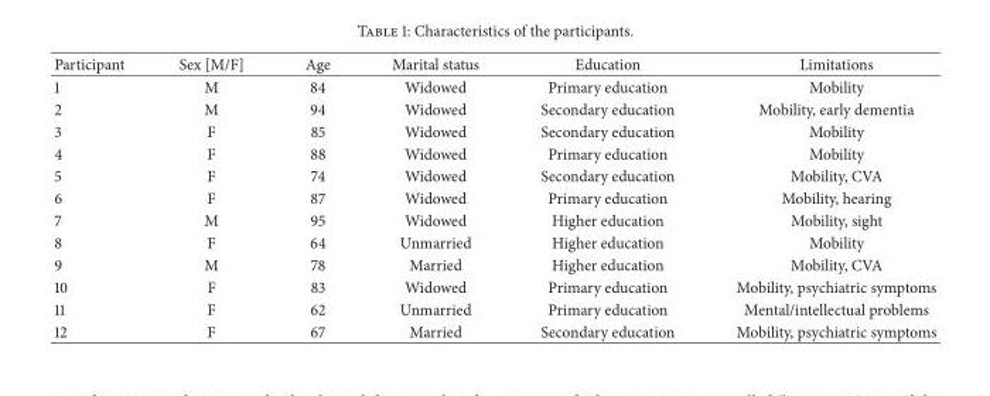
<table><thead><tr><td>Participant</td><td>Sex [M/F]</td><td>Age</td><td>Marital status</td><td>Education</td><td>Limitations</td></tr></thead><tbody><tr><td>1</td><td>M</td><td>84</td><td>Widowed</td><td>Primary education</td><td>Mobility</td></tr><tr><td>2</td><td>M</td><td>94</td><td>Widowed</td><td>Secondary education</td><td>Mobility, early dementia</td></tr><tr><td>3</td><td>F</td><td>85</td><td>Widowed</td><td>Secondary education</td><td>Mobility</td></tr><tr><td>4</td><td>F</td><td>88</td><td>Widowed</td><td>Primary education</td><td>Mobility</td></tr><tr><td>5</td><td>F</td><td>74</td><td>Widowed</td><td>Secondary education</td><td>Mobility, CVA</td></tr><tr><td>6</td><td>F</td><td>87</td><td>Widowed</td><td>Primary education</td><td>Mobility, hearing</td></tr><tr><td>7</td><td>M</td><td>95</td><td>Widowed</td><td>Higher education</td><td>Mobility, sight</td></tr><tr><td>8</td><td>F</td><td>64</td><td>Unmarried</td><td>Higher education</td><td>Mobility</td></tr><tr><td>9</td><td>M</td><td>78</td><td>Married</td><td>Higher education</td><td>Mobility, CVA</td></tr><tr><td>10</td><td>F</td><td>83</td><td>Widowed</td><td>Primary education</td><td>Mobility, psychiatric symptoms</td></tr><tr><td>11</td><td>F</td><td>62</td><td>Unmarried</td><td>Primary education</td><td>Mental/intellectual problems</td></tr><tr><td>12</td><td>F</td><td>67</td><td>Married</td><td>Secondary education</td><td>Mobility, psychiatric symptoms</td></tr></tbody></table>